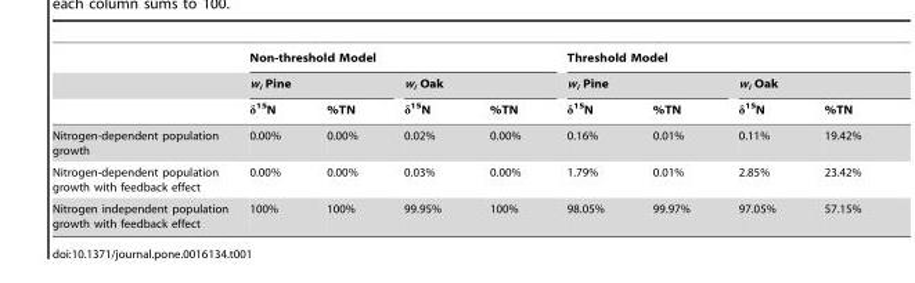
<table><thead><tr><td rowspan="3"></td><td colspan="4">Non-threshold Model</td><td colspan="4">Threshold Model</td></tr><tr><td colspan="2">w<sub>i</sub> Pine</td><td colspan="2">w<sub>i</sub> Oak</td><td colspan="2">w<sub>i</sub> Pine</td><td colspan="2">w<sub>i</sub> Oak</td></tr><tr><td>δ<sup>15</sup>N</td><td>%TN</td><td>δ<sup>15</sup>N</td><td>%TN</td><td>δ<sup>15</sup>N</td><td>%TN</td><td>δ<sup>15</sup>N</td><td>%TN</td></tr></thead><tbody><tr><td>Nitrogen-dependent population growth</td><td>0.00%</td><td>0.00%</td><td>0.02%</td><td>0.00%</td><td>0.16%</td><td>0.01%</td><td>0.11%</td><td>19.42%</td></tr><tr><td>Nitrogen-dependent population growth with feedback effect</td><td>0.00%</td><td>0.00%</td><td>0.03%</td><td>0.00%</td><td>1.79%</td><td>0.01%</td><td>2.85%</td><td>23.42%</td></tr><tr><td>Nitrogen independent population growth with feedback effect</td><td>100%</td><td>100%</td><td>99.95%</td><td>100%</td><td>98.05%</td><td>99.97%</td><td>97.05%</td><td>57.15%</td></tr></tbody></table>